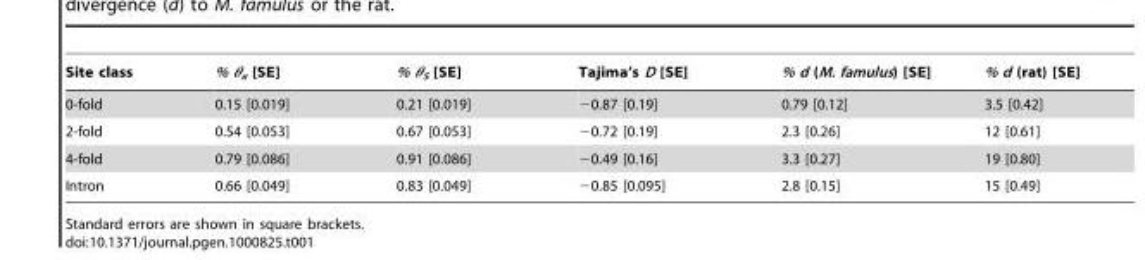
<table><thead><tr><td>Site class</td><td>% θ<sub>π</sub> [SE]</td><td>% θ<sub>S</sub> [SE]</td><td>Tajima’s D [SE]</td><td>% d (M. famulus) [SE]</td><td>% d (rat) [SE]</td></tr></thead><tbody><tr><td>0-fold</td><td>0.15 [0.019]</td><td>0.21 [0.019]</td><td>−0.87 [0.19]</td><td>0.79 [0.12]</td><td>3.5 [0.42]</td></tr><tr><td>2-fold</td><td>0.54 [0.053]</td><td>0.67 [0.053]</td><td>−0.72 [0.19]</td><td>2.3 [0.26]</td><td>12 [0.61]</td></tr><tr><td>4-fold</td><td>0.79 [0.086]</td><td>0.91 [0.086]</td><td>−0.49 [0.16]</td><td>3.3 [0.27]</td><td>19 [0.80]</td></tr><tr><td>Intron</td><td>0.66 [0.049]</td><td>0.83 [0.049]</td><td>−0.85 [0.095]</td><td>2.8 [0.15]</td><td>15 [0.49]</td></tr></tbody></table>